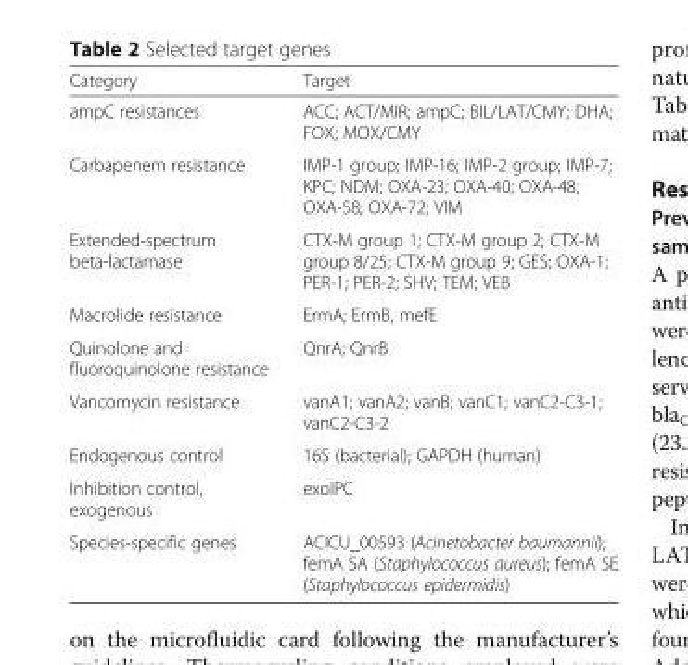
<table><thead><tr><td>Category</td><td>Target</td></tr></thead><tbody><tr><td>ampC resistances</td><td>ACC; ACT/MIR; ampC; BIL/LAT/CMY; DHA; FOX; MOX/CMY</td></tr><tr><td>Carbapenem resistance</td><td>IMP-1 group; IMP-16; IMP-2 group; IMP-7; KPC; NDM; OXA-23; OXA-40; OXA-48; OXA-58; OXA-72; VIM</td></tr><tr><td>Extended-spectrum beta-lactamase</td><td>CTX-M group 1; CTX-M group 2; CTX-M group 8/25; CTX-M group 9; GES; OXA-1; PER-1; PER-2; SHV; TEM; VEB</td></tr><tr><td>Macrolide resistance</td><td>ErmA; ErmB, mefE</td></tr><tr><td>Quinolone and fluoroquinolone resistance</td><td>QnrA; QnrB</td></tr><tr><td>Vancomycin resistance</td><td>vanA1; vanA2; vanB; vanC1; vanC2-C3-1; vanC2-C3-2</td></tr><tr><td>Endogenous control</td><td>16S (bacterial); GAPDH (human)</td></tr><tr><td>Inhibition control, exogenous</td><td>exoIPC</td></tr><tr><td>Species-specific genes</td><td>ACICU_00593 (Acinetobacter baumannii); femA SA (Staphylococcus aureus); femA SE (Staphylococcus epidermidis)</td></tr></tbody></table>